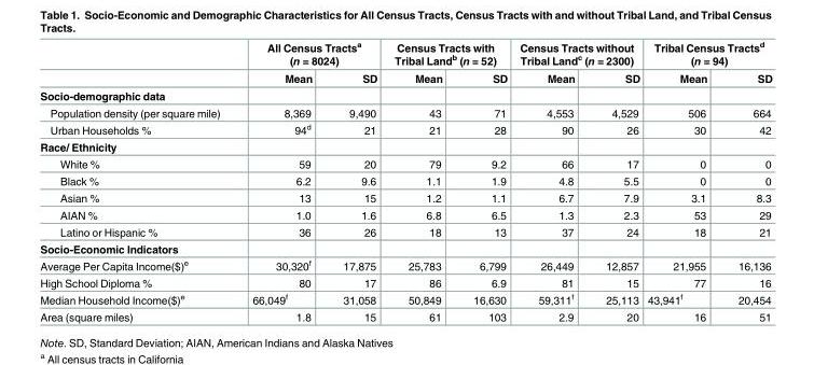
<table><thead><tr><td rowspan="2"></td><td colspan="2">All Census Tracts<sup>a</sup> (n = 8024)</td><td colspan="2">Census Tracts with Tribal Land<sup>b</sup> (n = 52)</td><td colspan="2">Census Tracts without Tribal Land<sup>c</sup> (n = 2300)</td><td colspan="2">Tribal Census Tracts<sup>d</sup> (n = 94)</td></tr><tr><td>Mean</td><td>SD</td><td>Mean</td><td>SD</td><td>Mean</td><td>SD</td><td>Mean</td><td>SD</td></tr></thead><tbody><tr><td colspan="9">Socio-demographic data</td></tr><tr><td>Population density (per square mile)</td><td>8,369</td><td>9,490</td><td>43</td><td>71</td><td>4,553</td><td>4,529</td><td>506</td><td>664</td></tr><tr><td>Urban Households %</td><td>94<sup>d</sup></td><td>21</td><td>21</td><td>28</td><td>90</td><td>26</td><td>30</td><td>42</td></tr><tr><td colspan="9">Race/ Ethnicity</td></tr><tr><td>White %</td><td>59</td><td>20</td><td>79</td><td>9.2</td><td>66</td><td>17</td><td>0</td><td>0</td></tr><tr><td>Black %</td><td>6.2</td><td>9.6</td><td>1.1</td><td>1.9</td><td>4.8</td><td>5.5</td><td>0</td><td>0</td></tr><tr><td>Asian %</td><td>13</td><td>15</td><td>1.2</td><td>1.1</td><td>6.7</td><td>7.9</td><td>3.1</td><td>8.3</td></tr><tr><td>AIAN %</td><td>1.0</td><td>1.6</td><td>6.8</td><td>6.5</td><td>1.3</td><td>2.3</td><td>53</td><td>29</td></tr><tr><td>Latino or Hispanic %</td><td>36</td><td>26</td><td>18</td><td>13</td><td>37</td><td>24</td><td>18</td><td>21</td></tr><tr><td colspan="9">Socio-Economic Indicators</td></tr><tr><td>Average Per Capita Income($)<sup>e</sup></td><td>30,320<sup>f</sup></td><td>17,875</td><td>25,783</td><td>6,799</td><td>26,449</td><td>12,857</td><td>21,955</td><td>16,136</td></tr><tr><td>High School Diploma %</td><td>80</td><td>17</td><td>86</td><td>6.9</td><td>81</td><td>15</td><td>77</td><td>16</td></tr><tr><td>Median Household Income($)<sup>e</sup></td><td>66,049<sup>f</sup></td><td>31,058</td><td>50,849</td><td>16,630</td><td>59,311<sup>f</sup></td><td>25,113</td><td>43,941<sup>f</sup></td><td>20,454</td></tr><tr><td>Area (square miles)</td><td>1.8</td><td>15</td><td>61</td><td>103</td><td>2.9</td><td>20</td><td>16</td><td>51</td></tr></tbody></table>